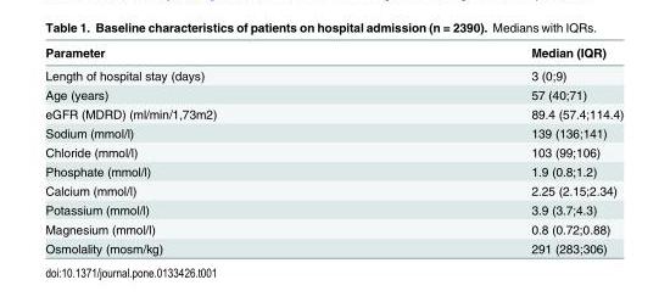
<table><thead><tr><td>Parameter</td><td>Median (IQR)</td></tr></thead><tbody><tr><td>Length of hospital stay (days)</td><td>3 (0;9)</td></tr><tr><td>Age (years)</td><td>57 (40;71)</td></tr><tr><td>eGFR (MDRD) (ml/min/1,73m2)</td><td>89.4 (57.4;114.4)</td></tr><tr><td>Sodium (mmol/l)</td><td>139 (136;141)</td></tr><tr><td>Chloride (mmol/l)</td><td>103 (99;106)</td></tr><tr><td>Phosphate (mmol/l)</td><td>1.9 (0.8;1.2)</td></tr><tr><td>Calcium (mmol/l)</td><td>2.25 (2.15;2.34)</td></tr><tr><td>Potassium (mmol/l)</td><td>3.9 (3.7;4.3)</td></tr><tr><td>Magnesium (mmol/l)</td><td>0.8 (0.72;0.88)</td></tr><tr><td>Osmolality (mosm/kg)</td><td>291 (283;306)</td></tr></tbody></table>